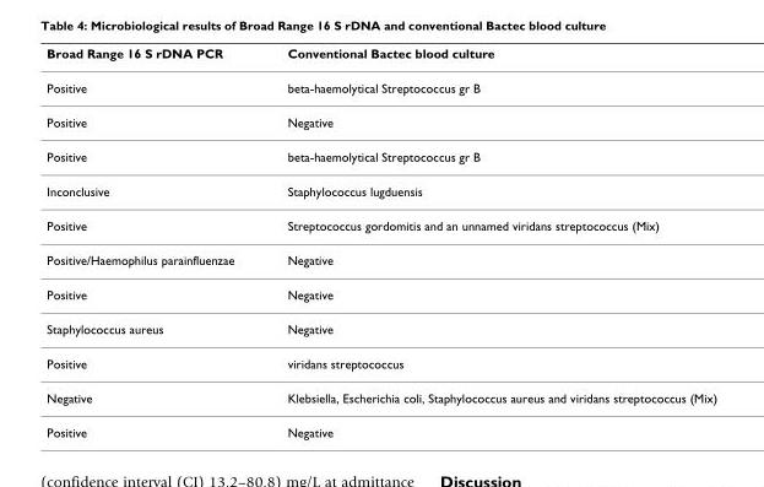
<table><thead><tr><td>Broad Range 16 S rDNA PCR</td><td>Conventional Bactec blood culture</td></tr></thead><tbody><tr><td>Positive</td><td>beta-haemolytical Streptococcus gr B</td></tr><tr><td>Positive</td><td>Negative</td></tr><tr><td>Positive</td><td>beta-haemolytical Streptococcus gr B</td></tr><tr><td>Inconclusive</td><td>Staphylococcus lugduensis</td></tr><tr><td>Positive</td><td>Streptococcus gordomitis and an unnamed viridans streptococcus (Mix)</td></tr><tr><td>Positive/Haemophilus parainfluenzae</td><td>Negative</td></tr><tr><td>Positive</td><td>Negative</td></tr><tr><td>Staphylococcus aureus</td><td>Negative</td></tr><tr><td>Positive</td><td>viridans streptococcus</td></tr><tr><td>Negative</td><td>Klebsiella, Escherichia coli, Staphylococcus aureus and viridans streptococcus (Mix)</td></tr><tr><td>Positive</td><td>Negative</td></tr></tbody></table>